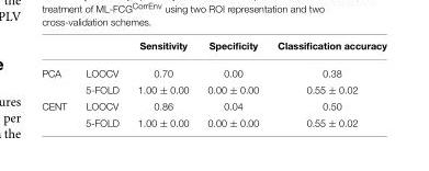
<table><thead><tr><td></td><td></td><td>Sensitivity</td><td>Specificity</td><td>Classification accuracy</td></tr></thead><tbody><tr><td rowspan="2">PCA</td><td>LOOCV</td><td>0.70</td><td>0.00</td><td>0.38</td></tr><tr><td>5-FOLD</td><td>1.00 ± 0.00</td><td>0.00 ± 0.00</td><td>0.55 ± 0.02</td></tr><tr><td rowspan="2">CENT</td><td>LOOCV</td><td>0.86</td><td>0.04</td><td>0.50</td></tr><tr><td>5-FOLD</td><td>1.00 ± 0.00</td><td>0.00 ± 0.00</td><td>0.55 ± 0.02</td></tr></tbody></table>